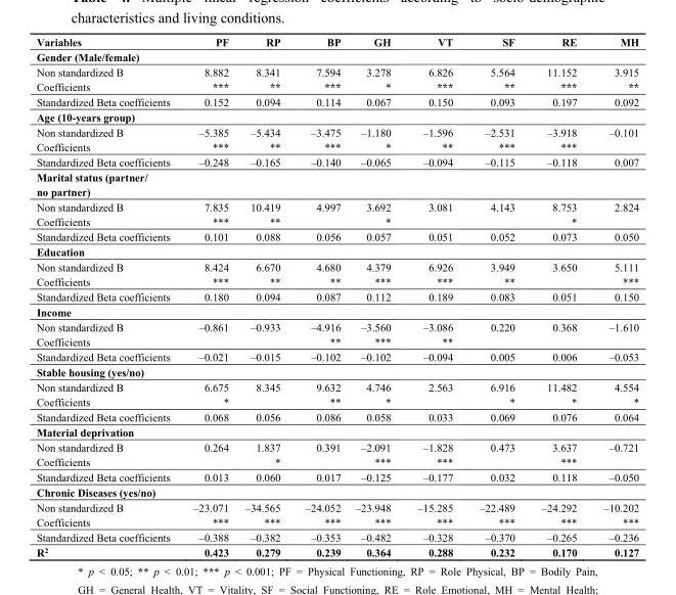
<table><thead><tr><td>Variables</td><td>PF</td><td>RP</td><td>BP</td><td>GH</td><td>VT</td><td>SF</td><td>RE</td><td>MH</td></tr></thead><tbody><tr><td colspan="9">Gender (Male/female)</td></tr><tr><td>Non standardized B Coefficients</td><td>8.882 ***</td><td>8.341 **</td><td>7.594 ***</td><td>3.278 *</td><td>6.826 ***</td><td>5.564 **</td><td>11.152 ***</td><td>3.915 **</td></tr><tr><td>Standardized Beta coefficients</td><td>0.152</td><td>0.094</td><td>0.114</td><td>0.067</td><td>0.150</td><td>0.093</td><td>0.197</td><td>0.092</td></tr><tr><td colspan="9">Age (10-years group)</td></tr><tr><td>Non standardized B Coefficients</td><td>–5.385 ***</td><td>–5.434 **</td><td>–3.475 ***</td><td>–1.180 *</td><td>–1.596 **</td><td>–2.531 ***</td><td>–3.918 ***</td><td>–0.101</td></tr><tr><td>Standardized Beta coefficients</td><td>–0.248</td><td>–0.165</td><td>–0.140</td><td>–0.065</td><td>–0.094</td><td>–0.115</td><td>–0.118</td><td>0.007</td></tr><tr><td colspan="9">Marital status (partner/ no partner)</td></tr><tr><td>Non standardized B Coefficients</td><td>7.835 ***</td><td>10.419 **</td><td>4.997</td><td>3.692 *</td><td>3.081</td><td>4.143</td><td>8.753 *</td><td>2.824</td></tr><tr><td>Standardized Beta coefficients</td><td>0.101</td><td>0.088</td><td>0.056</td><td>0.057</td><td>0.051</td><td>0.052</td><td>0.073</td><td>0.050</td></tr><tr><td colspan="9">Education</td></tr><tr><td>Non standardized B Coefficients</td><td>8.424 ***</td><td>6.670 **</td><td>4.680 **</td><td>4.379 ***</td><td>6.926 ***</td><td>3.949 **</td><td>3.650</td><td>5.111 ***</td></tr><tr><td>Standardized Beta coefficients</td><td>0.180</td><td>0.094</td><td>0.087</td><td>0.112</td><td>0.189</td><td>0.083</td><td>0.051</td><td>0.150</td></tr><tr><td colspan="9">Income</td></tr><tr><td>Non standardized B Coefficients</td><td>–0.861</td><td>–0.933</td><td>–4.916 **</td><td>–3.560 ***</td><td>–3.086 **</td><td>0.220</td><td>0.368</td><td>–1.610</td></tr><tr><td>Standardized Beta coefficients</td><td>–0.021</td><td>–0.015</td><td>–0.102</td><td>–0.102</td><td>–0.094</td><td>0.005</td><td>0.006</td><td>–0.053</td></tr><tr><td colspan="9">Stable housing (yes/no)</td></tr><tr><td>Non standardized B Coefficients</td><td>6.675 *</td><td>8.345</td><td>9.632 **</td><td>4.746 *</td><td>2.563</td><td>6.916 *</td><td>11.482 *</td><td>4.554 *</td></tr><tr><td>Standardized Beta coefficients</td><td>0.068</td><td>0.056</td><td>0.086</td><td>0.058</td><td>0.033</td><td>0.069</td><td>0.076</td><td>0.064</td></tr><tr><td colspan="9">Material deprivation</td></tr><tr><td>Non standardized B Coefficients</td><td>0.264</td><td>1.837 *</td><td>0.391</td><td>–2.091 ***</td><td>–1.828 ***</td><td>0.473</td><td>3.637 ***</td><td>–0.721</td></tr><tr><td>Standardized Beta coefficients</td><td>0.013</td><td>0.060</td><td>0.017</td><td>–0.125</td><td>–0.177</td><td>0.032</td><td>0.118</td><td>–0.050</td></tr><tr><td colspan="9">Chronic Diseases (yes/no)</td></tr><tr><td>Non standardized B Coefficients</td><td>–23.071 ***</td><td>–34.565 ***</td><td>–24.052 ***</td><td>–23.948 ***</td><td>–15.285 ***</td><td>–22.489 ***</td><td>–24.292 ***</td><td>–10.202 ***</td></tr><tr><td>Standardized Beta coefficients</td><td>–0.388</td><td>–0.382</td><td>–0.353</td><td>–0.482</td><td>–0.328</td><td>–0.370</td><td>–0.265</td><td>–0.236</td></tr><tr><td>R<sup>2</sup></td><td>0.423</td><td>0.279</td><td>0.239</td><td>0.364</td><td>0.288</td><td>0.232</td><td>0.170</td><td>0.127</td></tr></tbody></table>